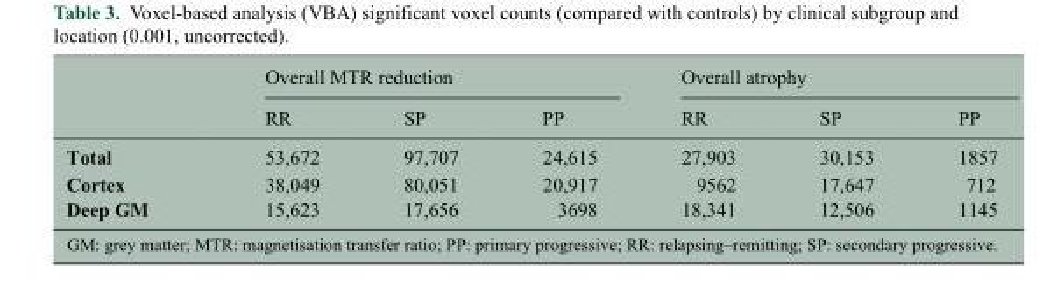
<table><thead><tr><td rowspan="2"></td><td colspan="3">Overall MTR reduction</td><td colspan="3">Overall atrophy</td></tr><tr><td>RR</td><td>SP</td><td>PP</td><td>RR</td><td>SP</td><td>PP</td></tr></thead><tbody><tr><td>Total</td><td>53,672</td><td>97,707</td><td>24,615</td><td>27,903</td><td>30,153</td><td>1857</td></tr><tr><td>Cortex</td><td>38,049</td><td>80,051</td><td>20,917</td><td>9562</td><td>17,647</td><td>712</td></tr><tr><td>Deep GM</td><td>15,623</td><td>17,656</td><td>3698</td><td>18,341</td><td>12,506</td><td>1145</td></tr></tbody></table>